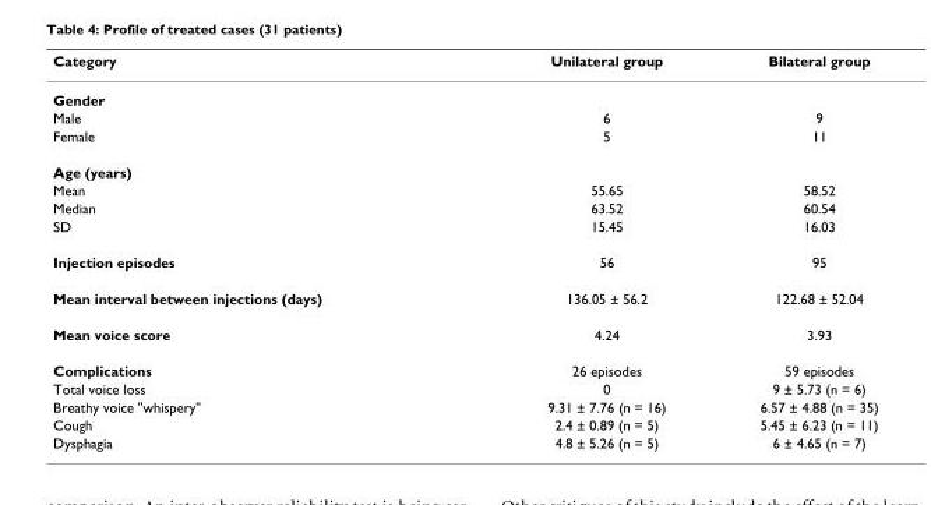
<table><thead><tr><td>Category</td><td>Unilateral group</td><td>Bilateral group</td></tr></thead><tbody><tr><td colspan="3">Gender</td></tr><tr><td>Male</td><td>6</td><td>9</td></tr><tr><td>Female</td><td>5</td><td>11</td></tr><tr><td colspan="3">Age (years)</td></tr><tr><td>Mean</td><td>55.65</td><td>58.52</td></tr><tr><td>Median</td><td>63.52</td><td>60.54</td></tr><tr><td>SD</td><td>15.45</td><td>16.03</td></tr><tr><td>Injection episodes</td><td>56</td><td>95</td></tr><tr><td>Mean interval between injections (days)</td><td>136.05 ± 56.2</td><td>122.68 ± 52.04</td></tr><tr><td>Mean voice score</td><td>4.24</td><td>3.93</td></tr><tr><td>Complications</td><td>26 episodes</td><td>59 episodes</td></tr><tr><td>Total voice loss</td><td>0</td><td>9 ± 5.73 (n = 6)</td></tr><tr><td>Breathy voice &quot;whispery&quot;</td><td>9.31 ± 7.76 (n = 16)</td><td>6.57 ± 4.88 (n = 35)</td></tr><tr><td>Cough</td><td>2.4 ± 0.89 (n = 5)</td><td>5.45 ± 6.23 (n = 11)</td></tr><tr><td>Dysphagia</td><td>4.8 ± 5.26 (n = 5)</td><td>6 ± 4.65 (n = 7)</td></tr></tbody></table>